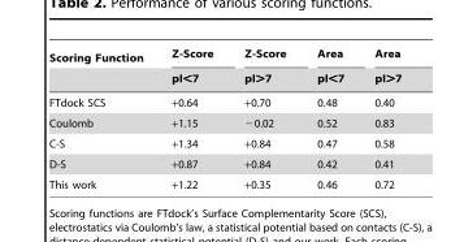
<table><thead><tr><td rowspan="2">Scoring Function</td><td rowspan="2">Z-Score pI&lt;7</td><td rowspan="2">Z-Score pI&gt;7</td><td rowspan="2">Area pI&lt;7</td><td rowspan="2">Area pI&gt;7</td></tr><tr></tr></thead><tbody><tr><td>FTdock SCS</td><td>+0.64</td><td>+0.70</td><td>0.48</td><td>0.40</td></tr><tr><td>Coulomb</td><td>+1.15</td><td>−0.02</td><td>0.52</td><td>0.83</td></tr><tr><td>C-S</td><td>+1.34</td><td>+0.84</td><td>0.47</td><td>0.58</td></tr><tr><td>D-S</td><td>+0.87</td><td>+0.84</td><td>0.42</td><td>0.41</td></tr><tr><td>This work</td><td>+1.22</td><td>+0.35</td><td>0.46</td><td>0.72</td></tr></tbody></table>